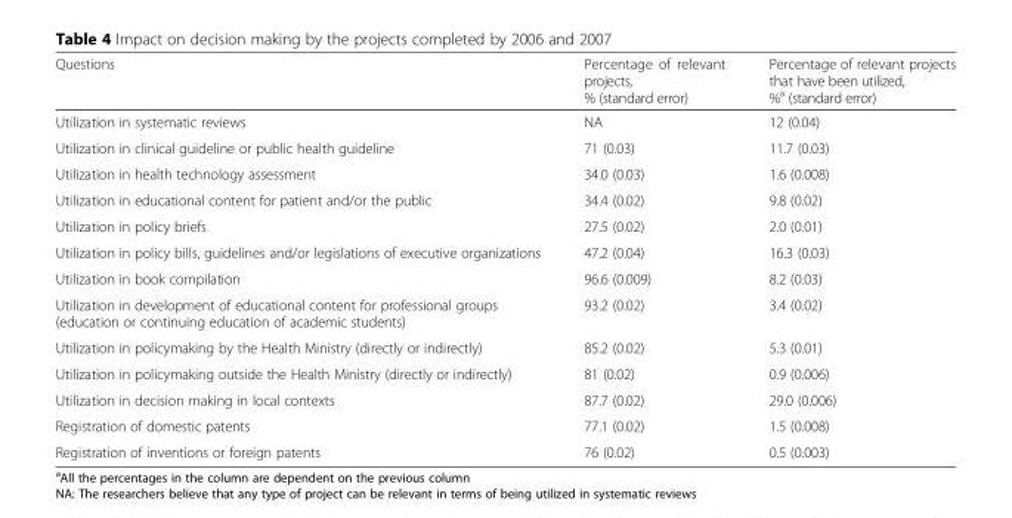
<table><thead><tr><td>Questions</td><td>Percentage of relevant projects, % (standard error)</td><td>Percentage of relevant projects that have been utilized, %<sup>a</sup> (standard error)</td></tr></thead><tbody><tr><td>Utilization in systematic reviews</td><td>NA</td><td>12 (0.04)</td></tr><tr><td>Utilization in clinical guideline or public health guideline</td><td>71 (0.03)</td><td>11.7 (0.03)</td></tr><tr><td>Utilization in health technology assessment</td><td>34.0 (0.03)</td><td>1.6 (0.008)</td></tr><tr><td>Utilization in educational content for patient and/or the public</td><td>34.4 (0.02)</td><td>9.8 (0.02)</td></tr><tr><td>Utilization in policy briefs</td><td>27.5 (0.02)</td><td>2.0 (0.01)</td></tr><tr><td>Utilization in policy bills, guidelines and/or legislations of executive organizations</td><td>47.2 (0.04)</td><td>16.3 (0.03)</td></tr><tr><td>Utilization in book compilation</td><td>96.6 (0.009)</td><td>8.2 (0.03)</td></tr><tr><td>Utilization in development of educational content for professional groups (education or continuing education of academic students)</td><td>93.2 (0.02)</td><td>3.4 (0.02)</td></tr><tr><td>Utilization in policymaking by the Health Ministry (directly or indirectly)</td><td>85.2 (0.02)</td><td>5.3 (0.01)</td></tr><tr><td>Utilization in policymaking outside the Health Ministry (directly or indirectly)</td><td>81 (0.02)</td><td>0.9 (0.006)</td></tr><tr><td>Utilization in decision making in local contexts</td><td>87.7 (0.02)</td><td>29.0 (0.006)</td></tr><tr><td>Registration of domestic patents</td><td>77.1 (0.02)</td><td>1.5 (0.008)</td></tr><tr><td>Registration of inventions or foreign patents</td><td>76 (0.02)</td><td>0.5 (0.003)</td></tr></tbody></table>